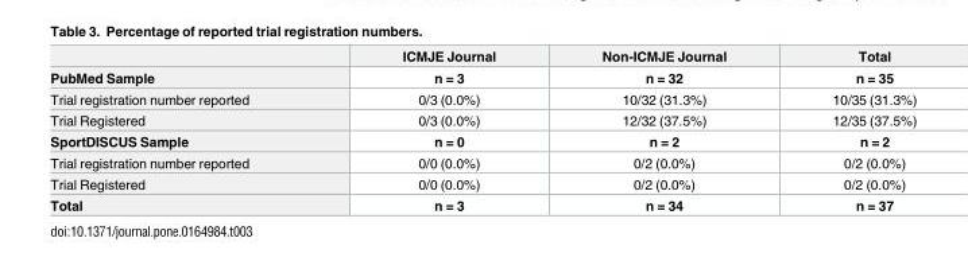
<table><thead><tr><td></td><td>ICMJE Journal</td><td>Non-ICMJE Journal</td><td>Total</td></tr></thead><tbody><tr><td>PubMed Sample</td><td>n = 3</td><td>n = 32</td><td>n = 35</td></tr><tr><td>Trial registration number reported</td><td>0/3 (0.0%)</td><td>10/32 (31.3%)</td><td>10/35 (31.3%)</td></tr><tr><td>Trial Registered</td><td>0/3 (0.0%)</td><td>12/32 (37.5%)</td><td>12/35 (37.5%)</td></tr><tr><td>SportDISCUS Sample</td><td>n = 0</td><td>n = 2</td><td>n = 2</td></tr><tr><td>Trial registration number reported</td><td>0/0 (0.0%)</td><td>0/2 (0.0%)</td><td>0/2 (0.0%)</td></tr><tr><td>Trial Registered</td><td>0/0 (0.0%)</td><td>0/2 (0.0%)</td><td>0/2 (0.0%)</td></tr><tr><td>Total</td><td>n = 3</td><td>n = 34</td><td>n = 37</td></tr></tbody></table>